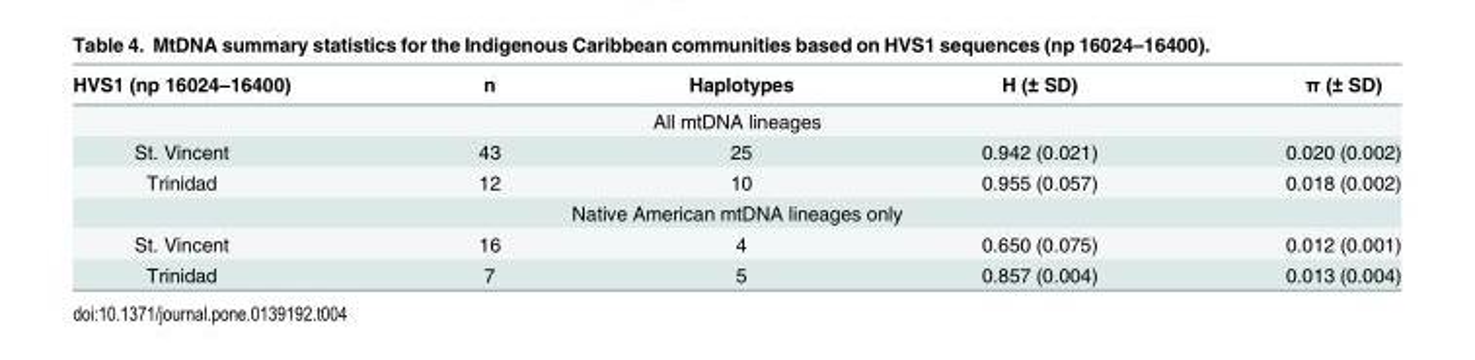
<table><thead><tr><td>HVS1 (np 16024–16400)</td><td>n</td><td>Haplotypes</td><td>H (± SD)</td><td>π (± SD)</td></tr></thead><tbody><tr><td colspan="5">All mtDNA lineages</td></tr><tr><td>St. Vincent</td><td>43</td><td>25</td><td>0.942 (0.021)</td><td>0.020 (0.002)</td></tr><tr><td>Trinidad</td><td>12</td><td>10</td><td>0.955 (0.057)</td><td>0.018 (0.002)</td></tr><tr><td colspan="5">Native American mtDNA lineages only</td></tr><tr><td>St. Vincent</td><td>16</td><td>4</td><td>0.650 (0.075)</td><td>0.012 (0.001)</td></tr><tr><td>Trinidad</td><td>7</td><td>5</td><td>0.857 (0.004)</td><td>0.013 (0.004)</td></tr></tbody></table>